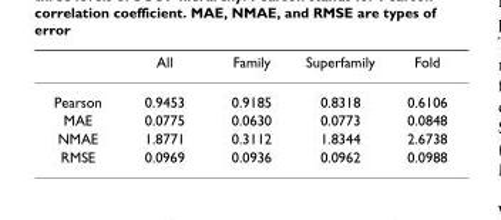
<table><thead><tr><td></td><td>All</td><td>Family</td><td>Superfamily</td><td>Fold</td></tr></thead><tbody><tr><td>Pearson</td><td>0.9453</td><td>0.9185</td><td>0.8318</td><td>0.6106</td></tr><tr><td>MAE</td><td>0.0775</td><td>0.0630</td><td>0.0773</td><td>0.0848</td></tr><tr><td>NMAE</td><td>1.8771</td><td>0.3112</td><td>1.8344</td><td>2.6738</td></tr><tr><td>RMSE</td><td>0.0969</td><td>0.0936</td><td>0.0962</td><td>0.0988</td></tr></tbody></table>